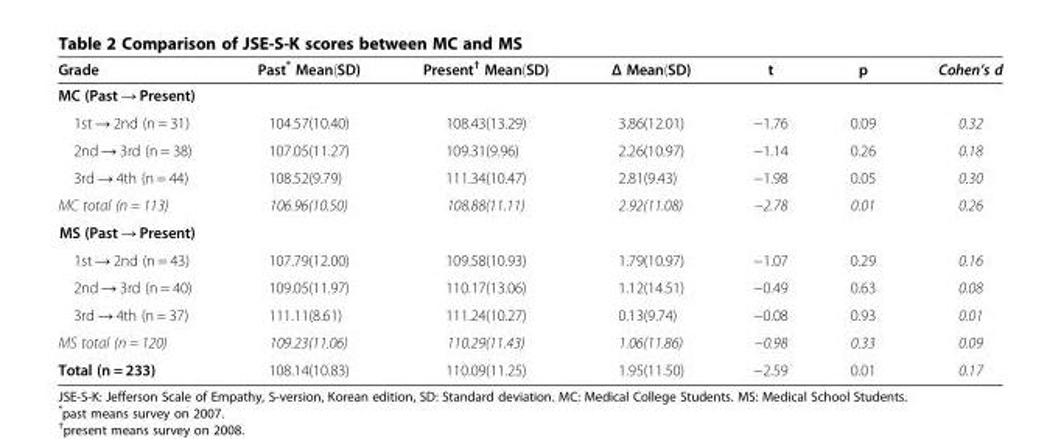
<table><thead><tr><td>Grade</td><td>Past* Mean(SD)</td><td>Present<sup>†</sup> Mean(SD)</td><td>Δ Mean(SD)</td><td>t</td><td>p</td><td>Cohen’s d</td></tr></thead><tbody><tr><td colspan="7">MC (Past → Present)</td></tr><tr><td>1st → 2nd (n = 31)</td><td>104.57(10.40)</td><td>108.43(13.29)</td><td>3.86(12.01)</td><td>−1.76</td><td>0.09</td><td>0.32</td></tr><tr><td>2nd → 3rd (n = 38)</td><td>107.05(11.27)</td><td>109.31(9.96)</td><td>2.26(10.97)</td><td>−1.14</td><td>0.26</td><td>0.18</td></tr><tr><td>3rd → 4th (n = 44)</td><td>108.52(9.79)</td><td>111.34(10.47)</td><td>2.81(9.43)</td><td>−1.98</td><td>0.05</td><td>0.30</td></tr><tr><td>MC total (n = 113)</td><td>106.96(10.50)</td><td>108.88(11.11)</td><td>2.92(11.08)</td><td>−2.78</td><td>0.01</td><td>0.26</td></tr><tr><td colspan="7">MS (Past → Present)</td></tr><tr><td>1st → 2nd (n = 43)</td><td>107.79(12.00)</td><td>109.58(10.93)</td><td>1.79(10.97)</td><td>−1.07</td><td>0.29</td><td>0.16</td></tr><tr><td>2nd → 3rd (n = 40)</td><td>109.05(11.97)</td><td>110.17(13.06)</td><td>1.12(14.51)</td><td>−0.49</td><td>0.63</td><td>0.08</td></tr><tr><td>3rd → 4th (n = 37)</td><td>111.11(8.61)</td><td>111.24(10.27)</td><td>0.13(9.74)</td><td>−0.08</td><td>0.93</td><td>0.01</td></tr><tr><td>MS total (n = 120)</td><td>109.23(11.06)</td><td>110.29(11.43)</td><td>1.06(11.86)</td><td>−0.98</td><td>0.33</td><td>0.09</td></tr><tr><td>Total (n = 233)</td><td>108.14(10.83)</td><td>110.09(11.25)</td><td>1.95(11.50)</td><td>−2.59</td><td>0.01</td><td>0.17</td></tr></tbody></table>